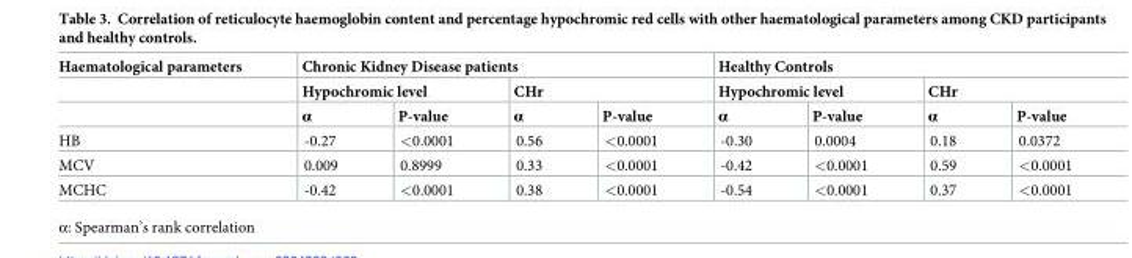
<table><thead><tr><td rowspan="3">Haematological parameters</td><td colspan="4">Chronic Kidney Disease patients</td><td colspan="4">Healthy Controls</td></tr><tr><td colspan="2">Hypochromic level</td><td colspan="2">CHr</td><td colspan="2">Hypochromic level</td><td colspan="2">CHr</td></tr><tr><td>α</td><td>P-value</td><td>α</td><td>P-value</td><td>α</td><td>P-value</td><td>α</td><td>P-value</td></tr></thead><tbody><tr><td>HB</td><td>-0.27</td><td>&lt;0.0001</td><td>0.56</td><td>&lt;0.0001</td><td>-0.30</td><td>0.0004</td><td>0.18</td><td>0.0372</td></tr><tr><td>MCV</td><td>0.009</td><td>0.8999</td><td>0.33</td><td>&lt;0.0001</td><td>-0.42</td><td>&lt;0.0001</td><td>0.59</td><td>&lt;0.0001</td></tr><tr><td>MCHC</td><td>-0.42</td><td>&lt;0.0001</td><td>0.38</td><td>&lt;0.0001</td><td>-0.54</td><td>&lt;0.0001</td><td>0.37</td><td>&lt;0.0001</td></tr></tbody></table>